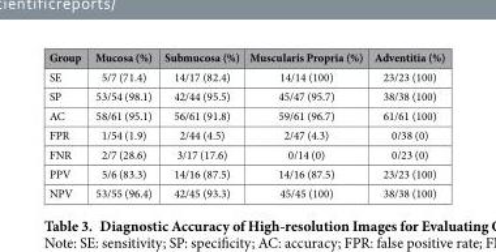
<table><thead><tr><td>Group</td><td>Mucosa (%)</td><td>Submucosa (%)</td><td>Muscularis Propria (%)</td><td>Adventitia (%)</td></tr></thead><tbody><tr><td>SE</td><td>5/7 (71.4)</td><td>14/17 (82.4)</td><td>14/14 (100)</td><td>23/23 (100)</td></tr><tr><td>SP</td><td>53/54 (98.1)</td><td>42/44 (95.5)</td><td>45/47 (95.7)</td><td>38/38 (100)</td></tr><tr><td>AC</td><td>58/61 (95.1)</td><td>56/61 (91.8)</td><td>59/61 (96.7)</td><td>61/61 (100)</td></tr><tr><td>FPR</td><td>1/54 (1.9)</td><td>2/44 (4.5)</td><td>2/47 (4.3)</td><td>0/38 (0)</td></tr><tr><td>FNR</td><td>2/7 (28.6)</td><td>3/17 (17.6)</td><td>0/14 (0)</td><td>0/23 (0)</td></tr><tr><td>PPV</td><td>5/6 (83.3)</td><td>14/16 (87.5)</td><td>14/16 (87.5)</td><td>23/23 (100)</td></tr><tr><td>NPV</td><td>53/55 (96.4)</td><td>42/45 (93.3)</td><td>45/45 (100)</td><td>38/38 (100)</td></tr></tbody></table>